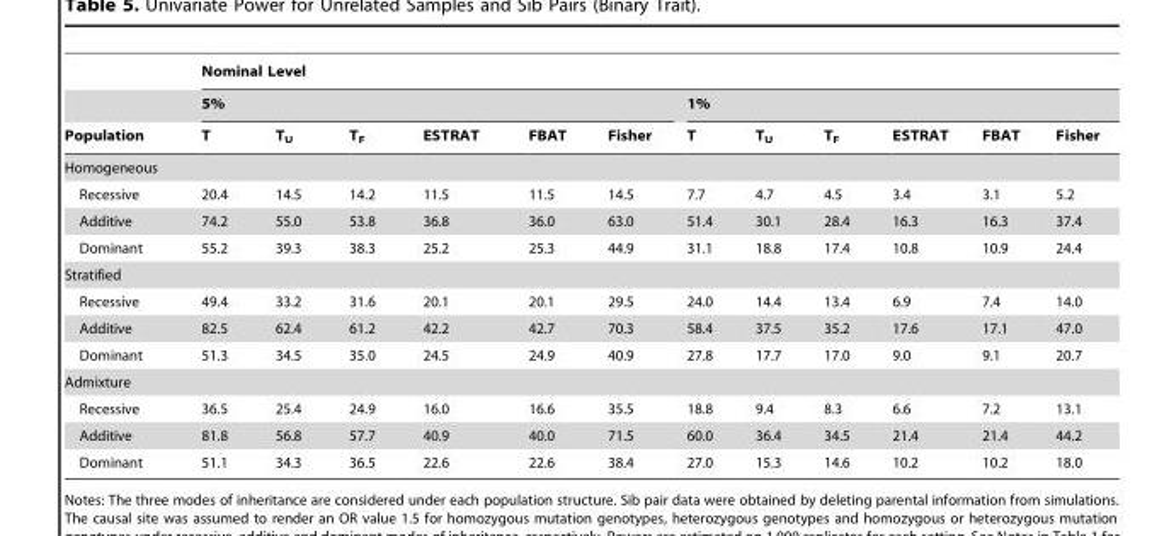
<table><thead><tr><td rowspan="3">Population</td><td colspan="12">Nominal Level</td></tr><tr><td colspan="6">5%</td><td colspan="6">1%</td></tr><tr><td>T</td><td>T<sub>U</sub></td><td>T<sub>F</sub></td><td>ESTRAT</td><td>FBAT</td><td>Fisher</td><td>T</td><td>T<sub>U</sub></td><td>T<sub>F</sub></td><td>ESTRAT</td><td>FBAT</td><td>Fisher</td></tr></thead><tbody><tr><td colspan="13">Homogeneous</td></tr><tr><td>Recessive</td><td>20.4</td><td>14.5</td><td>14.2</td><td>11.5</td><td>11.5</td><td>14.5</td><td>7.7</td><td>4.7</td><td>4.5</td><td>3.4</td><td>3.1</td><td>5.2</td></tr><tr><td>Additive</td><td>74.2</td><td>55.0</td><td>53.8</td><td>36.8</td><td>36.0</td><td>63.0</td><td>51.4</td><td>30.1</td><td>28.4</td><td>16.3</td><td>16.3</td><td>37.4</td></tr><tr><td>Dominant</td><td>55.2</td><td>39.3</td><td>38.3</td><td>25.2</td><td>25.3</td><td>44.9</td><td>31.1</td><td>18.8</td><td>17.4</td><td>10.8</td><td>10.9</td><td>24.4</td></tr><tr><td colspan="13">Stratified</td></tr><tr><td>Recessive</td><td>49.4</td><td>33.2</td><td>31.6</td><td>20.1</td><td>20.1</td><td>29.5</td><td>24.0</td><td>14.4</td><td>13.4</td><td>6.9</td><td>7.4</td><td>14.0</td></tr><tr><td>Additive</td><td>82.5</td><td>62.4</td><td>61.2</td><td>42.2</td><td>42.7</td><td>70.3</td><td>58.4</td><td>37.5</td><td>35.2</td><td>17.6</td><td>17.1</td><td>47.0</td></tr><tr><td>Dominant</td><td>51.3</td><td>34.5</td><td>35.0</td><td>24.5</td><td>24.9</td><td>40.9</td><td>27.8</td><td>17.7</td><td>17.0</td><td>9.0</td><td>9.1</td><td>20.7</td></tr><tr><td colspan="13">Admixture</td></tr><tr><td>Recessive</td><td>36.5</td><td>25.4</td><td>24.9</td><td>16.0</td><td>16.6</td><td>35.5</td><td>18.8</td><td>9.4</td><td>8.3</td><td>6.6</td><td>7.2</td><td>13.1</td></tr><tr><td>Additive</td><td>81.8</td><td>56.8</td><td>57.7</td><td>40.9</td><td>40.0</td><td>71.5</td><td>60.0</td><td>36.4</td><td>34.5</td><td>21.4</td><td>21.4</td><td>44.2</td></tr><tr><td>Dominant</td><td>51.1</td><td>34.3</td><td>36.5</td><td>22.6</td><td>22.6</td><td>38.4</td><td>27.0</td><td>15.3</td><td>14.6</td><td>10.2</td><td>10.2</td><td>18.0</td></tr></tbody></table>